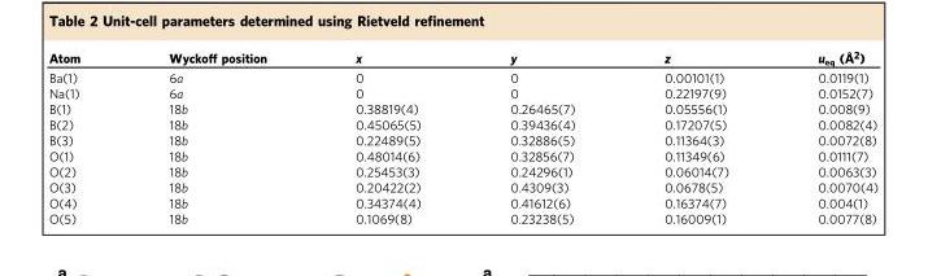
<table><thead><tr><td>Atom</td><td>Wyckoff position</td><td>x</td><td>y</td><td>z</td><td>u<sub>eq</sub> (Å<sup>2</sup>)</td></tr></thead><tbody><tr><td>Ba(1)</td><td>6a</td><td>0</td><td>0</td><td>0.00101(1)</td><td>0.0119(1)</td></tr><tr><td>Na(1)</td><td>6a</td><td>0</td><td>0</td><td>0.22197(9)</td><td>0.0152(7)</td></tr><tr><td>B(1)</td><td>18b</td><td>0.38819(4)</td><td>0.26465(7)</td><td>0.05556(1)</td><td>0.008(9)</td></tr><tr><td>B(2)</td><td>18b</td><td>0.45065(5)</td><td>0.39436(4)</td><td>0.17207(5)</td><td>0.0082(4)</td></tr><tr><td>B(3)</td><td>18b</td><td>0.22489(5)</td><td>0.32886(5)</td><td>0.11364(3)</td><td>0.0072(8)</td></tr><tr><td>O(1)</td><td>18b</td><td>0.48014(6)</td><td>0.32856(7)</td><td>0.11349(6)</td><td>0.0111(7)</td></tr><tr><td>O(2)</td><td>18b</td><td>0.25453(3)</td><td>0.24296(1)</td><td>0.06014(7)</td><td>0.0063(3)</td></tr><tr><td>O(3)</td><td>18b</td><td>0.20422(2)</td><td>0.4309(3)</td><td>0.0678(5)</td><td>0.0070(4)</td></tr><tr><td>O(4)</td><td>18b</td><td>0.34374(4)</td><td>0.41612(6)</td><td>0.16374(7)</td><td>0.004(1)</td></tr><tr><td>O(5)</td><td>18b</td><td>0.1069(8)</td><td>0.23238(5)</td><td>0.16009(1)</td><td>0.0077(8)</td></tr></tbody></table>